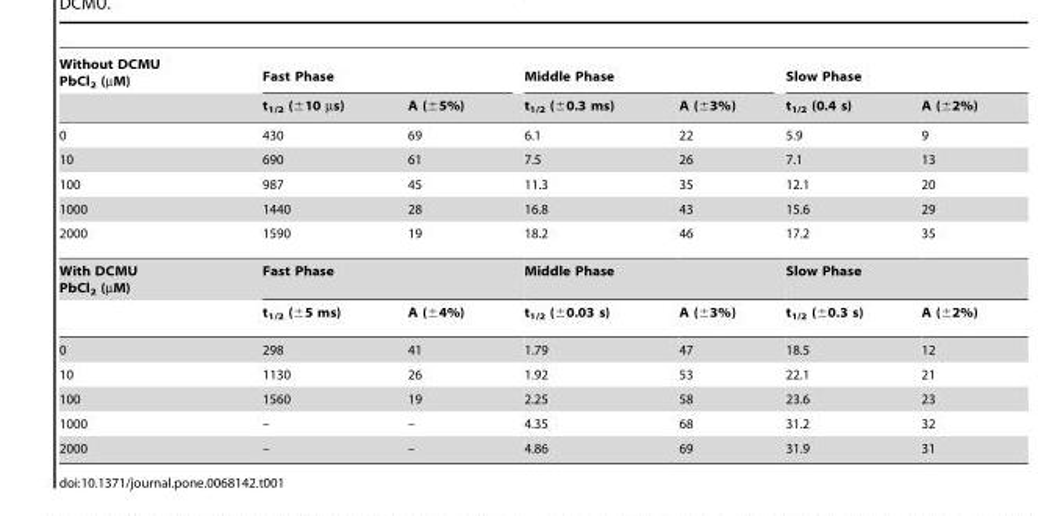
<table><thead><tr><td rowspan="2">Without DCMU PbCl<sub>2</sub> (µM)</td><td colspan="2">Fast Phase</td><td colspan="2">Middle Phase</td><td colspan="2">Slow Phase</td></tr><tr><td>t<sub>1/2</sub> (±10 µs)</td><td>A (±5%)</td><td>t<sub>1/2</sub> (±0.3 ms)</td><td>A (±3%)</td><td>t<sub>1/2</sub> (0.4 s)</td><td>A (±2%)</td></tr></thead><tbody><tr><td>0</td><td>430</td><td>69</td><td>6.1</td><td>22</td><td>5.9</td><td>9</td></tr><tr><td>10</td><td>690</td><td>61</td><td>7.5</td><td>26</td><td>7.1</td><td>13</td></tr><tr><td>100</td><td>987</td><td>45</td><td>11.3</td><td>35</td><td>12.1</td><td>20</td></tr><tr><td>1000</td><td>1440</td><td>28</td><td>16.8</td><td>43</td><td>15.6</td><td>29</td></tr><tr><td>2000</td><td>1590</td><td>19</td><td>18.2</td><td>46</td><td>17.2</td><td>35</td></tr><tr><td rowspan="2">With DCMU PbCl<sub>2</sub> (µM)</td><td colspan="2">Fast Phase</td><td colspan="2">Middle Phase</td><td colspan="2">Slow Phase</td></tr><tr><td>t<sub>1/2</sub> (±5 ms)</td><td>A (±4%)</td><td>t<sub>1/2</sub> (±0.03 s)</td><td>A (±3%)</td><td>t<sub>1/2</sub> (±0.3 s)</td><td>A (±2%)</td></tr><tr><td>0</td><td>298</td><td>41</td><td>1.79</td><td>47</td><td>18.5</td><td>12</td></tr><tr><td>10</td><td>1130</td><td>26</td><td>1.92</td><td>53</td><td>22.1</td><td>21</td></tr><tr><td>100</td><td>1560</td><td>19</td><td>2.25</td><td>58</td><td>23.6</td><td>23</td></tr><tr><td>1000</td><td>–</td><td>–</td><td>4.35</td><td>68</td><td>31.2</td><td>32</td></tr><tr><td>2000</td><td>–</td><td>–</td><td>4.86</td><td>69</td><td>31.9</td><td>31</td></tr></tbody></table>